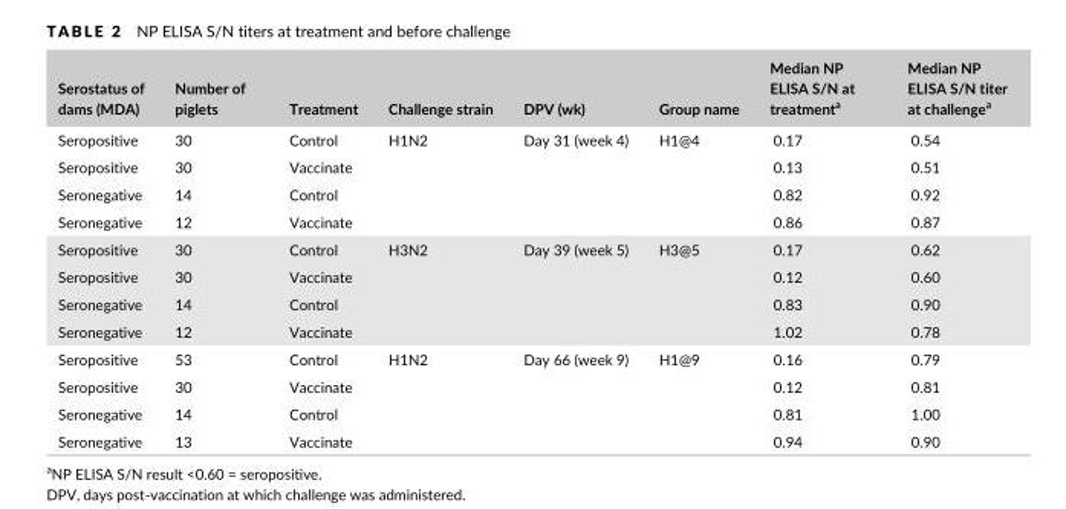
<table><thead><tr><td>Serostatus of dams (MDA)</td><td>Number of piglets</td><td>Treatment</td><td>Challenge strain</td><td>DPV (wk)</td><td>Group name</td><td>Median NP ELISA S/N at treatment<sup>a</sup></td><td>Median NP ELISA S/N titer at challenge<sup>a</sup></td></tr></thead><tbody><tr><td>Seropositive</td><td>30</td><td>Control</td><td rowspan="4">H1N2</td><td rowspan="4">Day 31 (week 4)</td><td rowspan="4">H1@4</td><td>0.17</td><td>0.54</td></tr><tr><td>Seropositive</td><td>30</td><td>Vaccinate</td><td>0.13</td><td>0.51</td></tr><tr><td>Seronegative</td><td>14</td><td>Control</td><td>0.82</td><td>0.92</td></tr><tr><td>Seronegative</td><td>12</td><td>Vaccinate</td><td>0.86</td><td>0.87</td></tr><tr><td>Seropositive</td><td>30</td><td>Control</td><td rowspan="4">H3N2</td><td rowspan="4">Day 39 (week 5)</td><td rowspan="4">H3@5</td><td>0.17</td><td>0.62</td></tr><tr><td>Seropositive</td><td>30</td><td>Vaccinate</td><td>0.12</td><td>0.60</td></tr><tr><td>Seronegative</td><td>14</td><td>Control</td><td>0.83</td><td>0.90</td></tr><tr><td>Seronegative</td><td>12</td><td>Vaccinate</td><td>1.02</td><td>0.78</td></tr><tr><td>Seropositive</td><td>53</td><td>Control</td><td rowspan="4">H1N2</td><td rowspan="4">Day 66 (week 9)</td><td rowspan="4">H1@9</td><td>0.16</td><td>0.79</td></tr><tr><td>Seropositive</td><td>30</td><td>Vaccinate</td><td>0.12</td><td>0.81</td></tr><tr><td>Seronegative</td><td>14</td><td>Control</td><td>0.81</td><td>1.00</td></tr><tr><td>Seronegative</td><td>13</td><td>Vaccinate</td><td>0.94</td><td>0.90</td></tr></tbody></table>